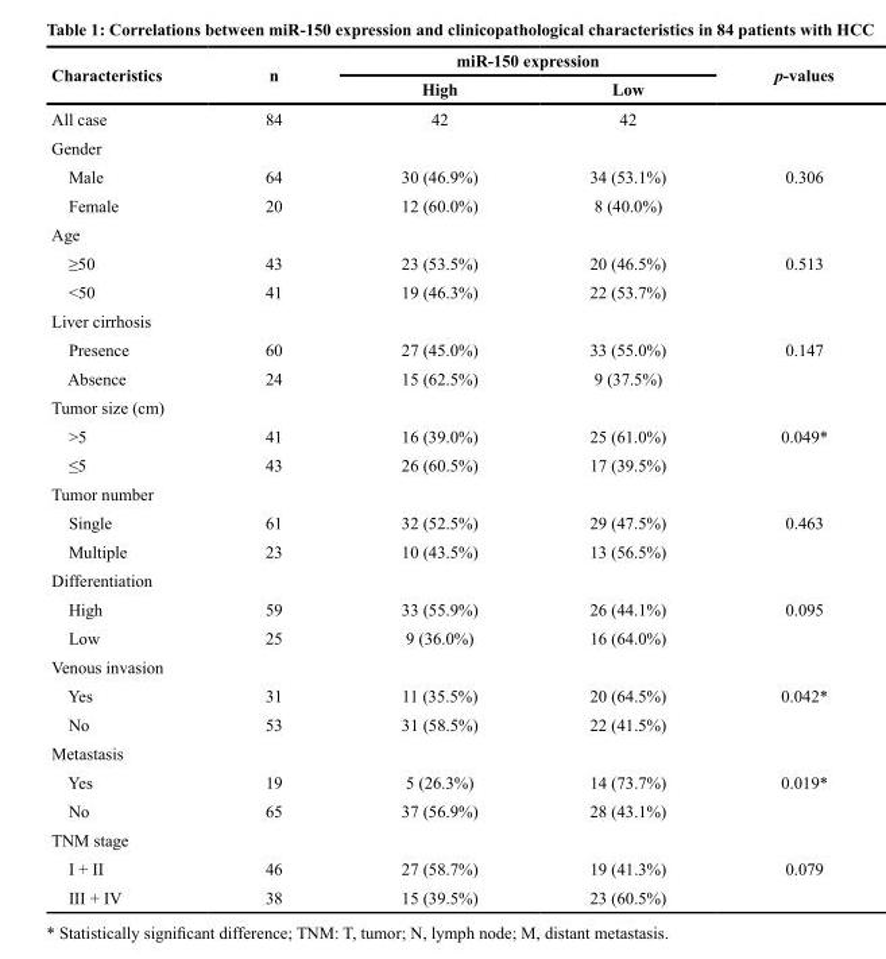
<table><thead><tr><td rowspan="2">Characteristics</td><td rowspan="2">n</td><td colspan="2">miR-150 expression</td><td rowspan="2">p-values</td></tr><tr><td>High</td><td>Low</td></tr></thead><tbody><tr><td>All case</td><td>84</td><td>42</td><td>42</td><td></td></tr><tr><td colspan="5">Gender</td></tr><tr><td>Male</td><td>64</td><td>30 (46.9%)</td><td>34 (53.1%)</td><td>0.306</td></tr><tr><td>Female</td><td>20</td><td>12 (60.0%)</td><td>8 (40.0%)</td><td></td></tr><tr><td colspan="5">Age</td></tr><tr><td>≥50</td><td>43</td><td>23 (53.5%)</td><td>20 (46.5%)</td><td>0.513</td></tr><tr><td>&lt;50</td><td>41</td><td>19 (46.3%)</td><td>22 (53.7%)</td><td></td></tr><tr><td colspan="5">Liver cirrhosis</td></tr><tr><td>Presence</td><td>60</td><td>27 (45.0%)</td><td>33 (55.0%)</td><td>0.147</td></tr><tr><td>Absence</td><td>24</td><td>15 (62.5%)</td><td>9 (37.5%)</td><td></td></tr><tr><td colspan="5">Tumor size (cm)</td></tr><tr><td>&gt;5</td><td>41</td><td>16 (39.0%)</td><td>25 (61.0%)</td><td>0.049*</td></tr><tr><td>≤5</td><td>43</td><td>26 (60.5%)</td><td>17 (39.5%)</td><td></td></tr><tr><td colspan="5">Tumor number</td></tr><tr><td>Single</td><td>61</td><td>32 (52.5%)</td><td>29 (47.5%)</td><td>0.463</td></tr><tr><td>Multiple</td><td>23</td><td>10 (43.5%)</td><td>13 (56.5%)</td><td></td></tr><tr><td colspan="5">Differentiation</td></tr><tr><td>High</td><td>59</td><td>33 (55.9%)</td><td>26 (44.1%)</td><td>0.095</td></tr><tr><td>Low</td><td>25</td><td>9 (36.0%)</td><td>16 (64.0%)</td><td></td></tr><tr><td colspan="5">Venous invasion</td></tr><tr><td>Yes</td><td>31</td><td>11 (35.5%)</td><td>20 (64.5%)</td><td>0.042*</td></tr><tr><td>No</td><td>53</td><td>31 (58.5%)</td><td>22 (41.5%)</td><td></td></tr><tr><td colspan="5">Metastasis</td></tr><tr><td>Yes</td><td>19</td><td>5 (26.3%)</td><td>14 (73.7%)</td><td>0.019*</td></tr><tr><td>No</td><td>65</td><td>37 (56.9%)</td><td>28 (43.1%)</td><td></td></tr><tr><td colspan="5">TNM stage</td></tr><tr><td>I + II</td><td>46</td><td>27 (58.7%)</td><td>19 (41.3%)</td><td>0.079</td></tr><tr><td>III + IV</td><td>38</td><td>15 (39.5%)</td><td>23 (60.5%)</td><td></td></tr></tbody></table>